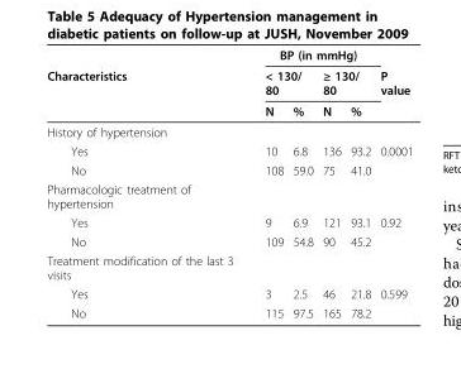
<table><thead><tr><td rowspan="3">Characteristics</td><td colspan="4">BP (in mmHg)</td><td rowspan="3">P value</td></tr><tr><td colspan="2">&lt; 130/ 80</td><td colspan="2">≥ 130/ 80</td></tr><tr><td>N</td><td>%</td><td>N</td><td>%</td></tr></thead><tbody><tr><td colspan="6">History of hypertension</td></tr><tr><td>Yes</td><td>10</td><td>6.8</td><td>136</td><td>93.2</td><td>0.0001</td></tr><tr><td>No</td><td>108</td><td>59.0</td><td>75</td><td>41.0</td><td></td></tr><tr><td colspan="6">Pharmacologic treatment of hypertension</td></tr><tr><td>Yes</td><td>9</td><td>6.9</td><td>121</td><td>93.1</td><td>0.92</td></tr><tr><td>No</td><td>109</td><td>54.8</td><td>90</td><td>45.2</td><td></td></tr><tr><td colspan="6">Treatment modification of the last 3 visits</td></tr><tr><td>Yes</td><td>3</td><td>2.5</td><td>46</td><td>21.8</td><td>0.599</td></tr><tr><td>No</td><td>115</td><td>97.5</td><td>165</td><td>78.2</td><td></td></tr></tbody></table>